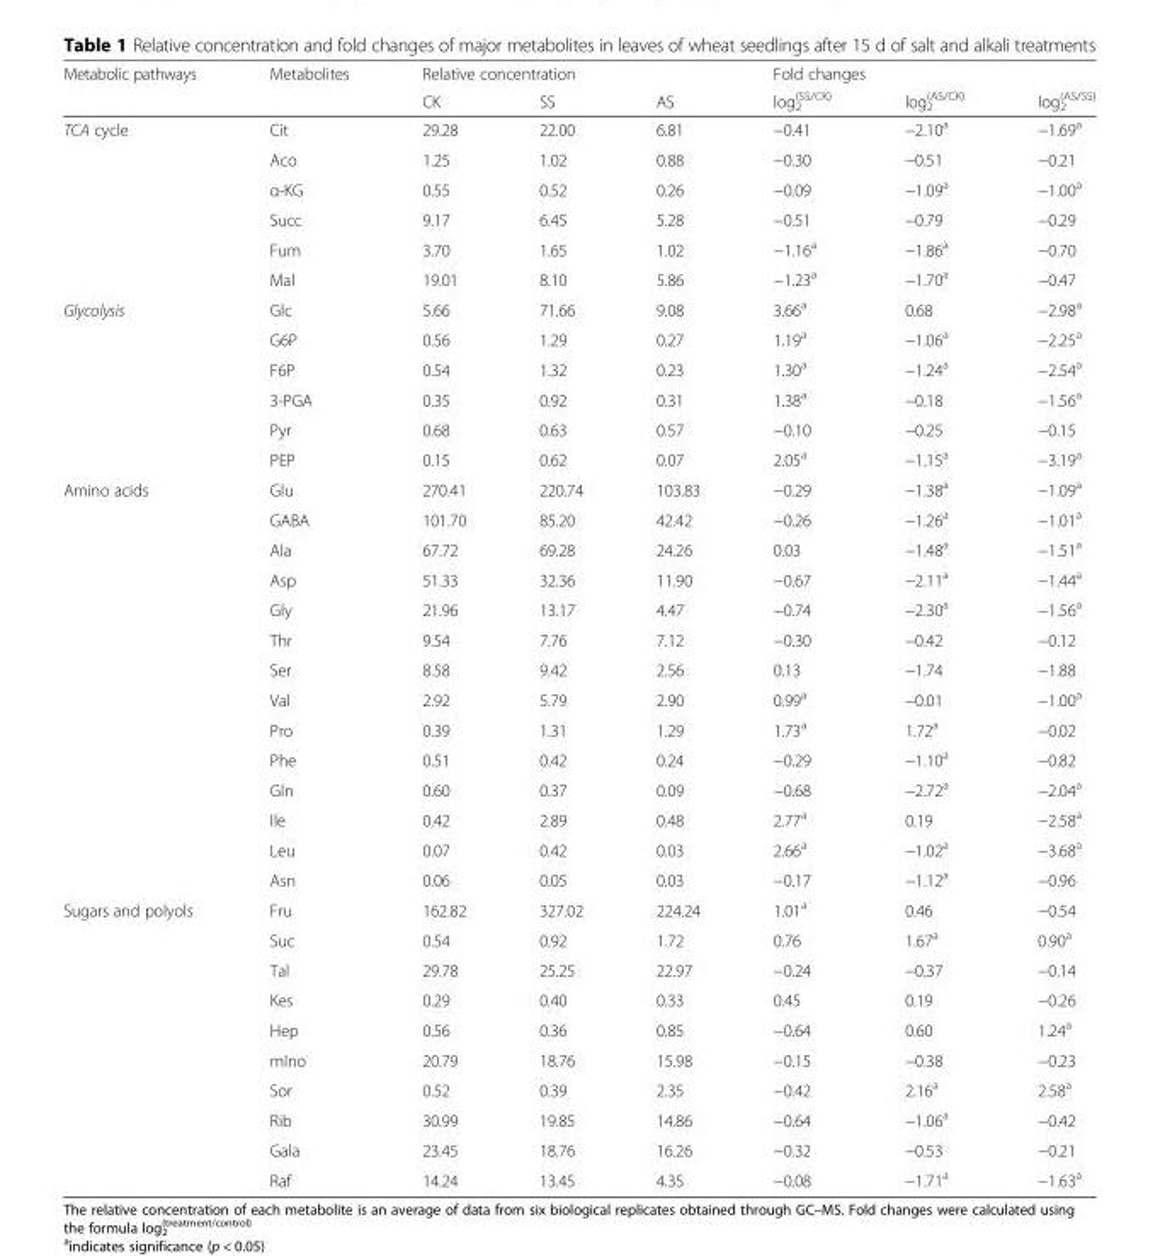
<table><thead><tr><td rowspan="2">Metabolic pathways</td><td rowspan="2">Metabolites</td><td colspan="3">Relative concentration</td><td colspan="3">Fold changes</td></tr><tr><td>CK</td><td>SS</td><td>AS</td><td>log<sub>2</sub> <sup>(SS/CK)</sup></td><td>log<sub>2</sub> <sup>(AS/CK)</sup></td><td>log<sub>2</sub> <sup>(AS/SS)</sup></td></tr></thead><tbody><tr><td rowspan="6">TCA cycle</td><td>Cit</td><td>29.28</td><td>22.00</td><td>6.81</td><td>−0.41</td><td>−2.10<sup>a</sup></td><td>−1.69<sup>a</sup></td></tr><tr><td>Aco</td><td>1.25</td><td>1.02</td><td>0.88</td><td>−0.30</td><td>−0.51</td><td>−0.21</td></tr><tr><td>α-KG</td><td>0.55</td><td>0.52</td><td>0.26</td><td>−0.09</td><td>−1.09<sup>a</sup></td><td>−1.00<sup>a</sup></td></tr><tr><td>Succ</td><td>9.17</td><td>6.45</td><td>5.28</td><td>−0.51</td><td>−0.79</td><td>−0.29</td></tr><tr><td>Fum</td><td>3.70</td><td>1.65</td><td>1.02</td><td>−1.16<sup>a</sup></td><td>−1.86<sup>a</sup></td><td>−0.70</td></tr><tr><td>Mal</td><td>19.01</td><td>8.10</td><td>5.86</td><td>−1.23<sup>a</sup></td><td>−1.70<sup>a</sup></td><td>−0.47</td></tr><tr><td rowspan="6">Glycolysis</td><td>Glc</td><td>5.66</td><td>71.66</td><td>9.08</td><td>3.66<sup>a</sup></td><td>0.68</td><td>−2.98<sup>a</sup></td></tr><tr><td>G6P</td><td>0.56</td><td>1.29</td><td>0.27</td><td>1.19<sup>a</sup></td><td>−1.06<sup>a</sup></td><td>−2.25<sup>a</sup></td></tr><tr><td>F6P</td><td>0.54</td><td>1.32</td><td>0.23</td><td>1.30<sup>a</sup></td><td>−1.24<sup>a</sup></td><td>−2.54<sup>a</sup></td></tr><tr><td>3-PGA</td><td>0.35</td><td>0.92</td><td>0.31</td><td>1.38<sup>a</sup></td><td>−0.18</td><td>−1.56<sup>a</sup></td></tr><tr><td>Pyr</td><td>0.68</td><td>0.63</td><td>0.57</td><td>−0.10</td><td>−0.25</td><td>−0.15</td></tr><tr><td>PEP</td><td>0.15</td><td>0.62</td><td>0.07</td><td>2.05<sup>a</sup></td><td>−1.15<sup>a</sup></td><td>−3.19<sup>a</sup></td></tr><tr><td rowspan="14">Amino acids</td><td>Glu</td><td>270.41</td><td>220.74</td><td>103.83</td><td>−0.29</td><td>−1.38<sup>a</sup></td><td>−1.09<sup>a</sup></td></tr><tr><td>GABA</td><td>101.70</td><td>85.20</td><td>42.42</td><td>−0.26</td><td>−1.26<sup>a</sup></td><td>−1.01<sup>a</sup></td></tr><tr><td>Ala</td><td>67.72</td><td>69.28</td><td>24.26</td><td>0.03</td><td>−1.48<sup>a</sup></td><td>−1.51<sup>a</sup></td></tr><tr><td>Asp</td><td>51.33</td><td>32.36</td><td>11.90</td><td>−0.67</td><td>−2.11<sup>a</sup></td><td>−1.44<sup>a</sup></td></tr><tr><td>Gly</td><td>21.96</td><td>13.17</td><td>4.47</td><td>−0.74</td><td>−2.30<sup>a</sup></td><td>−1.56<sup>a</sup></td></tr><tr><td>Thr</td><td>9.54</td><td>7.76</td><td>7.12</td><td>−0.30</td><td>−0.42</td><td>−0.12</td></tr><tr><td>Ser</td><td>8.58</td><td>9.42</td><td>2.56</td><td>0.13</td><td>−1.74</td><td>−1.88</td></tr><tr><td>Val</td><td>2.92</td><td>5.79</td><td>2.90</td><td>0.99<sup>a</sup></td><td>−0.01</td><td>−1.00<sup>a</sup></td></tr><tr><td>Pro</td><td>0.39</td><td>1.31</td><td>1.29</td><td>1.73<sup>a</sup></td><td>1.72<sup>a</sup></td><td>−0.02</td></tr><tr><td>Phe</td><td>0.51</td><td>0.42</td><td>0.24</td><td>−0.29</td><td>−1.10<sup>a</sup></td><td>−0.82</td></tr><tr><td>Gln</td><td>0.60</td><td>0.37</td><td>0.09</td><td>−0.68</td><td>−2.72<sup>a</sup></td><td>−2.04<sup>a</sup></td></tr><tr><td>Ile</td><td>0.42</td><td>2.89</td><td>0.48</td><td>2.77<sup>a</sup></td><td>0.19</td><td>−2.58<sup>a</sup></td></tr><tr><td>Leu</td><td>0.07</td><td>0.42</td><td>0.03</td><td>2.66<sup>a</sup></td><td>−1.02<sup>a</sup></td><td>−3.68<sup>a</sup></td></tr><tr><td>Asn</td><td>0.06</td><td>0.05</td><td>0.03</td><td>−0.17</td><td>−1.12<sup>a</sup></td><td>−0.96</td></tr><tr><td rowspan="10">Sugars and polyols</td><td>Fru</td><td>162.82</td><td>327.02</td><td>224.24</td><td>1.01<sup>a</sup></td><td>0.46</td><td>−0.54</td></tr><tr><td>Suc</td><td>0.54</td><td>0.92</td><td>1.72</td><td>0.76</td><td>1.67<sup>a</sup></td><td>0.90<sup>a</sup></td></tr><tr><td>Tal</td><td>29.78</td><td>25.25</td><td>22.97</td><td>−0.24</td><td>−0.37</td><td>−0.14</td></tr><tr><td>Kes</td><td>0.29</td><td>0.40</td><td>0.33</td><td>0.45</td><td>0.19</td><td>−0.26</td></tr><tr><td>Hep</td><td>0.56</td><td>0.36</td><td>0.85</td><td>−0.64</td><td>0.60</td><td>1.24<sup>a</sup></td></tr><tr><td>mIno</td><td>20.79</td><td>18.76</td><td>15.98</td><td>−0.15</td><td>−0.38</td><td>−0.23</td></tr><tr><td>Sor</td><td>0.52</td><td>0.39</td><td>2.35</td><td>−0.42</td><td>2.16<sup>a</sup></td><td>2.58<sup>a</sup></td></tr><tr><td>Rib</td><td>30.99</td><td>19.85</td><td>14.86</td><td>−0.64</td><td>−1.06<sup>a</sup></td><td>−0.42</td></tr><tr><td>Gala</td><td>23.45</td><td>18.76</td><td>16.26</td><td>−0.32</td><td>−0.53</td><td>−0.21</td></tr><tr><td>Raf</td><td>14.24</td><td>13.45</td><td>4.35</td><td>−0.08</td><td>−1.71<sup>a</sup></td><td>−1.63<sup>a</sup></td></tr></tbody></table>